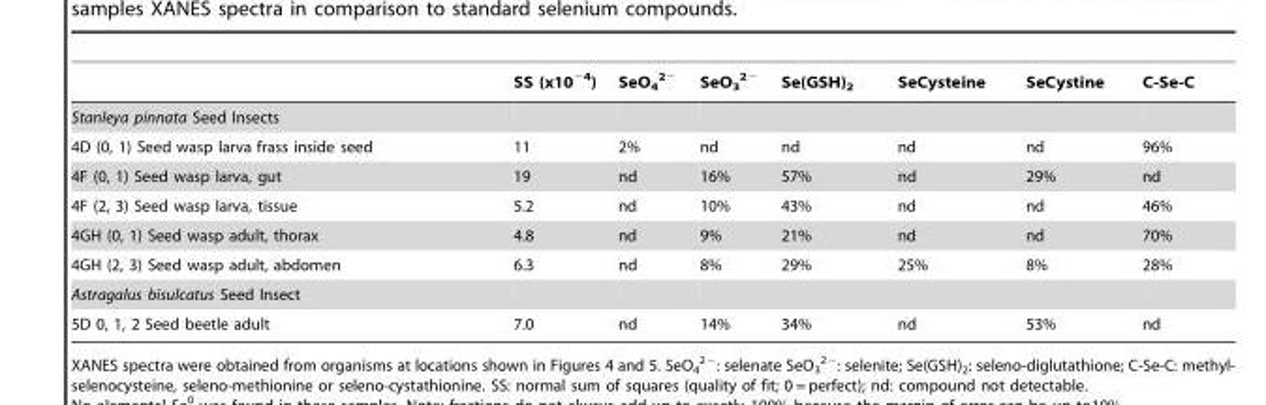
<table><thead><tr><td></td><td>SS (x10<sup>−4</sup>)</td><td>SeO<sub>4</sub> <sup>2−</sup></td><td>SeO<sub>3</sub> <sup>2−</sup></td><td>Se(GSH)<sub>2</sub></td><td>SeCysteine</td><td>SeCystine</td><td>C-Se-C</td></tr></thead><tbody><tr><td colspan="8">Stanleya pinnata Seed Insects</td></tr><tr><td>4D (0, 1) Seed wasp larva frass inside seed</td><td>11</td><td>2%</td><td>nd</td><td>nd</td><td>nd</td><td>nd</td><td>96%</td></tr><tr><td>4F (0, 1) Seed wasp larva, gut</td><td>19</td><td>nd</td><td>16%</td><td>57%</td><td>nd</td><td>29%</td><td>nd</td></tr><tr><td>4F (2, 3) Seed wasp larva, tissue</td><td>5.2</td><td>nd</td><td>10%</td><td>43%</td><td>nd</td><td>nd</td><td>46%</td></tr><tr><td>4GH (0, 1) Seed wasp adult, thorax</td><td>4.8</td><td>nd</td><td>9%</td><td>21%</td><td>nd</td><td>nd</td><td>70%</td></tr><tr><td>4GH (2, 3) Seed wasp adult, abdomen</td><td>6.3</td><td>nd</td><td>8%</td><td>29%</td><td>25%</td><td>8%</td><td>28%</td></tr><tr><td colspan="8">Astragalus bisulcatus Seed Insect</td></tr><tr><td>5D 0, 1, 2 Seed beetle adult</td><td>7.0</td><td>nd</td><td>14%</td><td>34%</td><td>nd</td><td>53%</td><td>nd</td></tr></tbody></table>